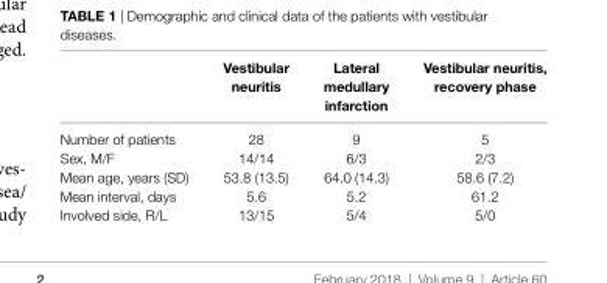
<table><thead><tr><td></td><td>Vestibular neuritis</td><td>lateral medullary infarction</td><td>Vestibular neuritis, recovery phase</td></tr></thead><tbody><tr><td>Number of patients</td><td>28</td><td>9</td><td>5</td></tr><tr><td>Sex, M/F</td><td>14/14</td><td>6/3</td><td>2/3</td></tr><tr><td>Mean age, years (SD)</td><td>53.8 (13.5)</td><td>64.0 (14.3)</td><td>58.6 (7.2)</td></tr><tr><td>Mean interval, days</td><td>5.6</td><td>5.2</td><td>61.2</td></tr><tr><td>Involved side, R/L</td><td>13/15</td><td>5/4</td><td>5/0</td></tr></tbody></table>